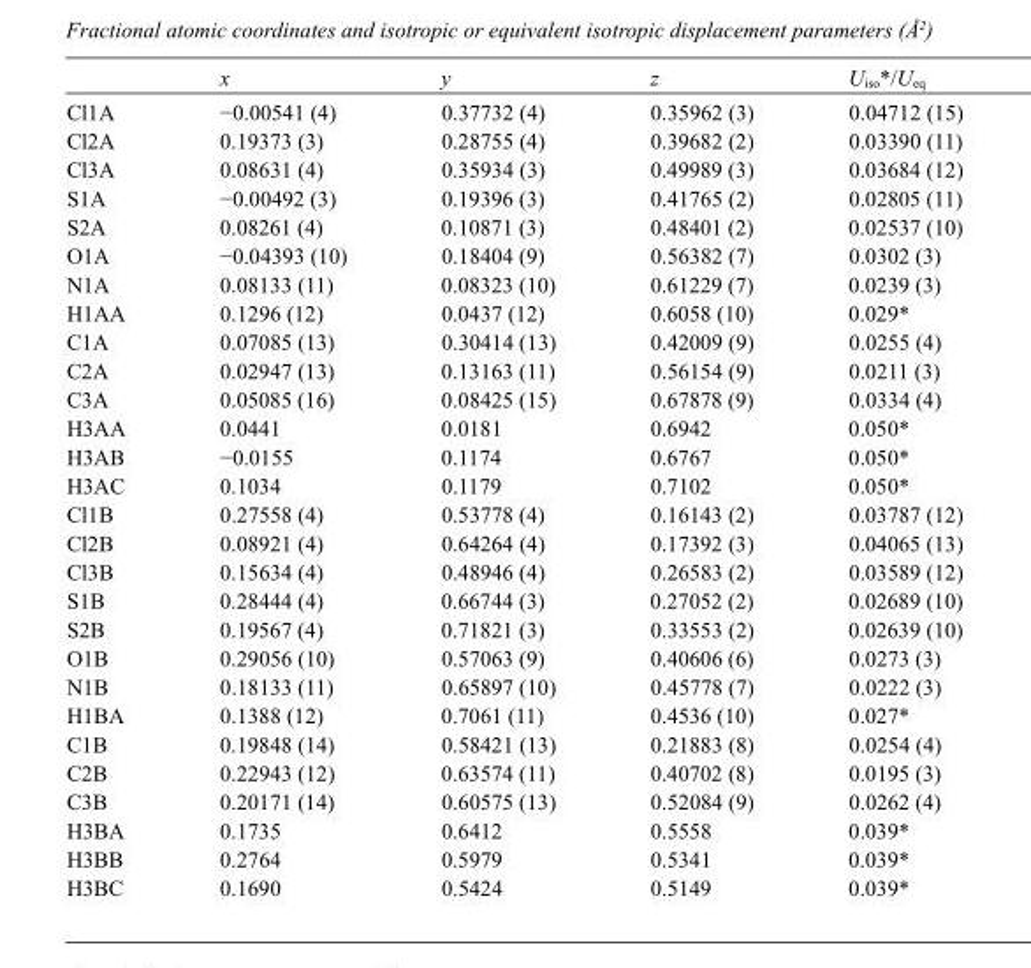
<table><thead><tr><td></td><td>x</td><td>y</td><td>z</td><td>U<sub>iso</sub>*/U<sub>eq</sub></td></tr></thead><tbody><tr><td>Cl1A</td><td>−0.00541 (4)</td><td>0.37732 (4)</td><td>0.35962 (3)</td><td>0.04712 (15)</td></tr><tr><td>Cl2A</td><td>0.19373 (3)</td><td>0.28755 (4)</td><td>0.39682 (2)</td><td>0.03390 (11)</td></tr><tr><td>Cl3A</td><td>0.08631 (4)</td><td>0.35934 (3)</td><td>0.49989 (3)</td><td>0.03684 (12)</td></tr><tr><td>S1A</td><td>−0.00492 (3)</td><td>0.19396 (3)</td><td>0.41765 (2)</td><td>0.02805 (11)</td></tr><tr><td>S2A</td><td>0.08261 (4)</td><td>0.10871 (3)</td><td>0.48401 (2)</td><td>0.02537 (10)</td></tr><tr><td>O1A</td><td>−0.04393 (10)</td><td>0.18404 (9)</td><td>0.56382 (7)</td><td>0.0302 (3)</td></tr><tr><td>N1A</td><td>0.08133 (11)</td><td>0.08323 (10)</td><td>0.61229 (7)</td><td>0.0239 (3)</td></tr><tr><td>H1AA</td><td>0.1296 (12)</td><td>0.0437 (12)</td><td>0.6058 (10)</td><td>0.029*</td></tr><tr><td>C1A</td><td>0.07085 (13)</td><td>0.30414 (13)</td><td>0.42009 (9)</td><td>0.0255 (4)</td></tr><tr><td>C2A</td><td>0.02947 (13)</td><td>0.13163 (11)</td><td>0.56154 (9)</td><td>0.0211 (3)</td></tr><tr><td>C3A</td><td>0.05085 (16)</td><td>0.08425 (15)</td><td>0.67878 (9)</td><td>0.0334 (4)</td></tr><tr><td>H3AA</td><td>0.0441</td><td>0.0181</td><td>0.6942</td><td>0.050*</td></tr><tr><td>H3AB</td><td>−0.0155</td><td>0.1174</td><td>0.6767</td><td>0.050*</td></tr><tr><td>H3AC</td><td>0.1034</td><td>0.1179</td><td>0.7102</td><td>0.050*</td></tr><tr><td>Cl1B</td><td>0.27558 (4)</td><td>0.53778 (4)</td><td>0.16143 (2)</td><td>0.03787 (12)</td></tr><tr><td>Cl2B</td><td>0.08921 (4)</td><td>0.64264 (4)</td><td>0.17392 (3)</td><td>0.04065 (13)</td></tr><tr><td>Cl3B</td><td>0.15634 (4)</td><td>0.48946 (4)</td><td>0.26583 (2)</td><td>0.03589 (12)</td></tr><tr><td>S1B</td><td>0.28444 (4)</td><td>0.66744 (3)</td><td>0.27052 (2)</td><td>0.02689 (10)</td></tr><tr><td>S2B</td><td>0.19567 (4)</td><td>0.71821 (3)</td><td>0.33553 (2)</td><td>0.02639 (10)</td></tr><tr><td>O1B</td><td>0.29056 (10)</td><td>0.57063 (9)</td><td>0.40606 (6)</td><td>0.0273 (3)</td></tr><tr><td>N1B</td><td>0.18133 (11)</td><td>0.65897 (10)</td><td>0.45778 (7)</td><td>0.0222 (3)</td></tr><tr><td>H1BA</td><td>0.1388 (12)</td><td>0.7061 (11)</td><td>0.4536 (10)</td><td>0.027*</td></tr><tr><td>C1B</td><td>0.19848 (14)</td><td>0.58421 (13)</td><td>0.21883 (8)</td><td>0.0254 (4)</td></tr><tr><td>C2B</td><td>0.22943 (12)</td><td>0.63574 (11)</td><td>0.40702 (8)</td><td>0.0195 (3)</td></tr><tr><td>C3B</td><td>0.20171 (14)</td><td>0.60575 (13)</td><td>0.52084 (9)</td><td>0.0262 (4)</td></tr><tr><td>H3BA</td><td>0.1735</td><td>0.6412</td><td>0.5558</td><td>0.039*</td></tr><tr><td>H3BB</td><td>0.2764</td><td>0.5979</td><td>0.5341</td><td>0.039*</td></tr><tr><td>H3BC</td><td>0.1690</td><td>0.5424</td><td>0.5149</td><td>0.039*</td></tr></tbody></table>